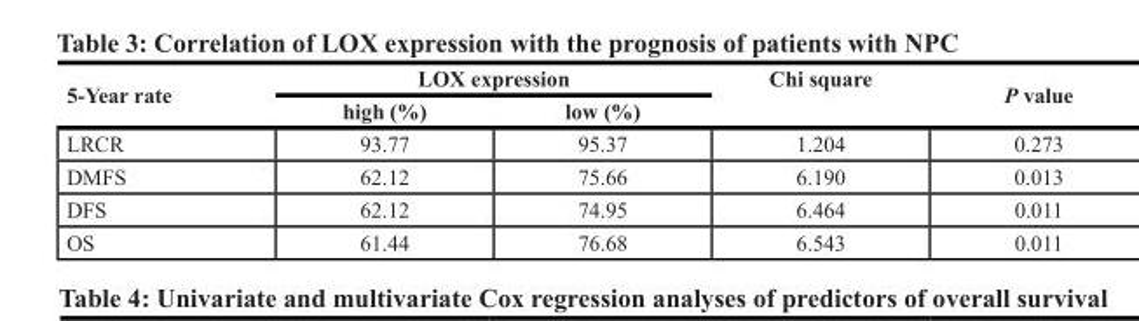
<table><thead><tr><td rowspan="2">5-Year rate</td><td colspan="2">LOX expression</td><td rowspan="2">Chi square</td><td rowspan="2">P value</td></tr><tr><td>high (%)</td><td>low (%)</td></tr></thead><tbody><tr><td>LRCR</td><td>93.77</td><td>95.37</td><td>1.204</td><td>0.273</td></tr><tr><td>DMFS</td><td>62.12</td><td>75.66</td><td>6.190</td><td>0.013</td></tr><tr><td>DFS</td><td>62.12</td><td>74.95</td><td>6.464</td><td>0.011</td></tr><tr><td>OS</td><td>61.44</td><td>76.68</td><td>6.543</td><td>0.011</td></tr></tbody></table>